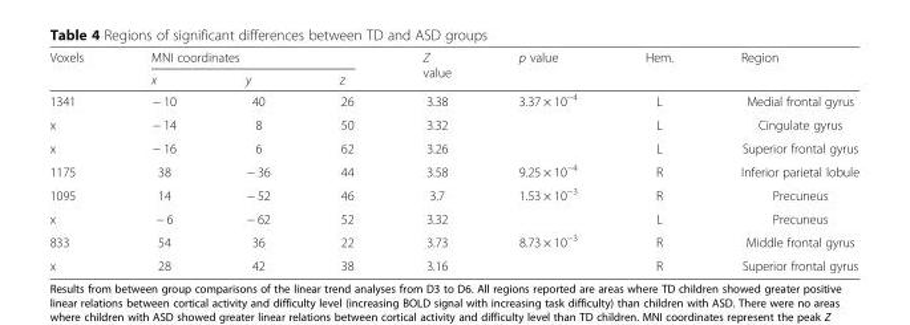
<table><thead><tr><td rowspan="2">Voxels</td><td colspan="3">MNI coordinates</td><td rowspan="2">Z value</td><td rowspan="2">p value</td><td rowspan="2">Hem.</td><td rowspan="2">Region</td></tr><tr><td>x</td><td>y</td><td>z</td></tr></thead><tbody><tr><td>1341</td><td>− 10</td><td>40</td><td>26</td><td>3.38</td><td>3.37 × 10<sup>−4</sup></td><td>L</td><td>Medial frontal gyrus</td></tr><tr><td>x</td><td>− 14</td><td>8</td><td>50</td><td>3.32</td><td></td><td>L</td><td>Cingulate gyrus</td></tr><tr><td>x</td><td>− 16</td><td>6</td><td>62</td><td>3.26</td><td></td><td>L</td><td>Superior frontal gyrus</td></tr><tr><td>1175</td><td>38</td><td>− 36</td><td>44</td><td>3.58</td><td>9.25 × 10<sup>−4</sup></td><td>R</td><td>Inferior parietal lobule</td></tr><tr><td>1095</td><td>14</td><td>− 52</td><td>46</td><td>3.7</td><td>1.53 × 10<sup>−3</sup></td><td>R</td><td>Precuneus</td></tr><tr><td>x</td><td>− 6</td><td>− 62</td><td>52</td><td>3.32</td><td></td><td>L</td><td>Precuneus</td></tr><tr><td>833</td><td>54</td><td>36</td><td>22</td><td>3.73</td><td>8.73 × 10<sup>−3</sup></td><td>R</td><td>Middle frontal gyrus</td></tr><tr><td>x</td><td>28</td><td>42</td><td>38</td><td>3.16</td><td></td><td>R</td><td>Superior frontal gyrus</td></tr></tbody></table>